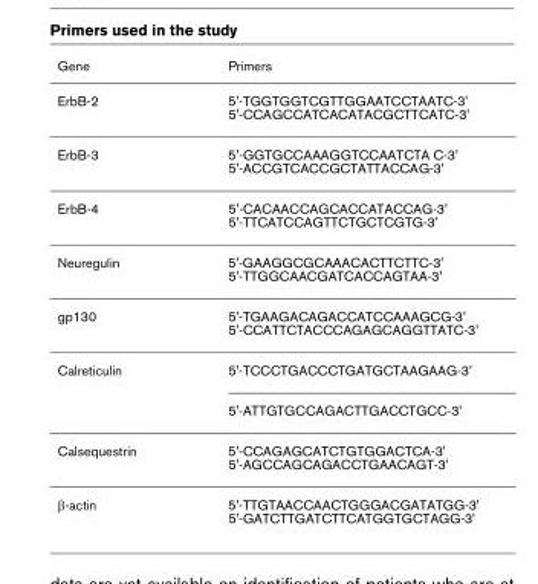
<table><thead><tr><td>Gene</td><td>Primers</td></tr></thead><tbody><tr><td>ErbB-2</td><td>5&#x27;-TGGTGGTCGTTGGAATCCTAATC-3&#x27; 5&#x27;-CCAGCCATCACATACGCTTCATC-3&#x27;</td></tr><tr><td>ErbB-3</td><td>5&#x27;-GGTGCCAAAGGTCCAATCTA C-3&#x27; 5&#x27;-ACCGTCACCGCTATTACCAG-3&#x27;</td></tr><tr><td>ErbB-4</td><td>5&#x27;-CACAACCAGCACCATACCAG-3&#x27; 5&#x27;-TTCATCCAGTTCTGCTCGTG-3&#x27;</td></tr><tr><td>Neuregulin</td><td>5&#x27;-GAAGGCGCAAACACTTCTTC-3&#x27; 5&#x27;-TTGGCAACGATCACCAGTAA-3&#x27;</td></tr><tr><td>gp130</td><td>5&#x27;-TGAAGACAGACCATCCAAAGCG-3&#x27; 5&#x27;-CCATTCTACCCAGAGCAGGTTATC-3&#x27;</td></tr><tr><td rowspan="2">Calreticulin</td><td>5&#x27;-TCCCTGACCCTGATGCTAAGAAG-3&#x27;</td></tr><tr><td>5&#x27;-ATTGTGCCAGACTTGACCTGCC-3&#x27;</td></tr><tr><td>Calsequestrin</td><td>5&#x27;-CCAGAGCATCTGTGGACTCA-3&#x27; 5&#x27;-AGCCAGCAGACCTGAACAGT-3&#x27;</td></tr><tr><td>β-actin</td><td>5&#x27;-TTGTAACCAACTGGGACGATATGG-3&#x27; 5&#x27;-GATCTTGATCTTCATGGTGCTAGG-3&#x27;</td></tr></tbody></table>